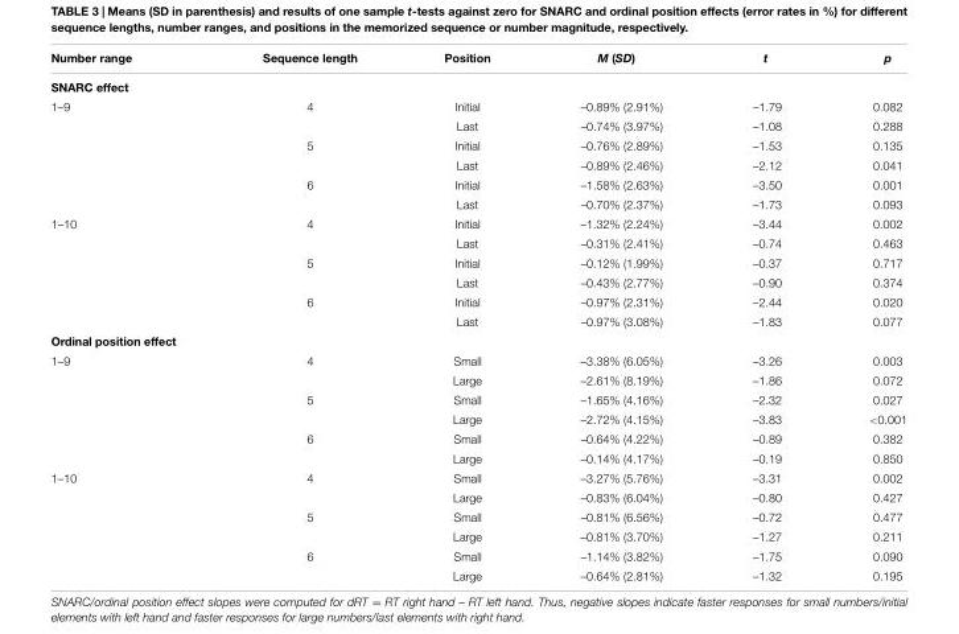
<table><thead><tr><td>Number range</td><td>Sequence length</td><td>Position</td><td>M (SD)</td><td>t</td><td>p</td></tr></thead><tbody><tr><td colspan="6">SNARC effect</td></tr><tr><td rowspan="6">1–9</td><td>4</td><td>Initial</td><td>–0.89% (2.91%)</td><td>–1.79</td><td>0.082</td></tr><tr><td></td><td>Last</td><td>–0.74% (3.97%)</td><td>–1.08</td><td>0.288</td></tr><tr><td>5</td><td>Initial</td><td>–0.76% (2.89%)</td><td>–1.53</td><td>0.135</td></tr><tr><td></td><td>Last</td><td>–0.89% (2.46%)</td><td>–2.12</td><td>0.041</td></tr><tr><td>6</td><td>Initial</td><td>–1.58% (2.63%)</td><td>–3.50</td><td>0.001</td></tr><tr><td></td><td>Last</td><td>–0.70% (2.37%)</td><td>–1.73</td><td>0.093</td></tr><tr><td rowspan="6">1–10</td><td>4</td><td>Initial</td><td>–1.32% (2.24%)</td><td>–3.44</td><td>0.002</td></tr><tr><td></td><td>Last</td><td>–0.31% (2.41%)</td><td>–0.74</td><td>0.463</td></tr><tr><td>5</td><td>Initial</td><td>–0.12% (1.99%)</td><td>–0.37</td><td>0.717</td></tr><tr><td></td><td>Last</td><td>–0.43% (2.77%)</td><td>–0.90</td><td>0.374</td></tr><tr><td>6</td><td>Initial</td><td>–0.97% (2.31%)</td><td>–2.44</td><td>0.020</td></tr><tr><td></td><td>Last</td><td>–0.97% (3.08%)</td><td>–1.83</td><td>0.077</td></tr><tr><td colspan="6">Ordinal position effect</td></tr><tr><td rowspan="6">1–9</td><td>4</td><td>Small</td><td>–3.38% (6.05%)</td><td>–3.26</td><td>0.003</td></tr><tr><td></td><td>Large</td><td>–2.61% (8.19%)</td><td>–1.86</td><td>0.072</td></tr><tr><td>5</td><td>Small</td><td>–1.65% (4.16%)</td><td>–2.32</td><td>0.027</td></tr><tr><td></td><td>Large</td><td>–2.72% (4.15%)</td><td>–3.83</td><td>&lt;0.001</td></tr><tr><td>6</td><td>Small</td><td>–0.64% (4.22%)</td><td>–0.89</td><td>0.382</td></tr><tr><td></td><td>Large</td><td>–0.14% (4.17%)</td><td>–0.19</td><td>0.850</td></tr><tr><td rowspan="6">1–10</td><td>4</td><td>Small</td><td>–3.27% (5.76%)</td><td>–3.31</td><td>0.002</td></tr><tr><td></td><td>Large</td><td>–0.83% (6.04%)</td><td>–0.80</td><td>0.427</td></tr><tr><td>5</td><td>Small</td><td>–0.81% (6.56%)</td><td>–0.72</td><td>0.477</td></tr><tr><td></td><td>Large</td><td>–0.81% (3.70%)</td><td>–1.27</td><td>0.211</td></tr><tr><td>6</td><td>Small</td><td>–1.14% (3.82%)</td><td>–1.75</td><td>0.090</td></tr><tr><td></td><td>Large</td><td>–0.64% (2.81%)</td><td>–1.32</td><td>0.195</td></tr></tbody></table>